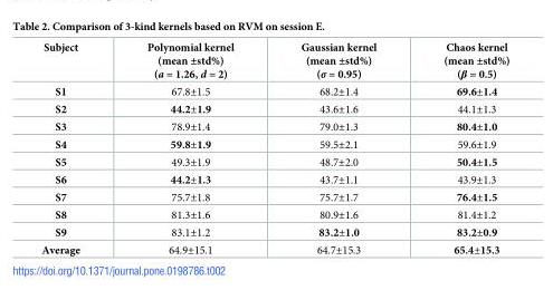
<table><thead><tr><td>Subject</td><td>Polynomial kernel (mean ±std%) (a = 1.26, d = 2)</td><td>Gaussian kernel (mean ±std%) (σ = 0.95)</td><td>Chaos kernel (mean ±std%) (β = 0.5)</td></tr></thead><tbody><tr><td>S1</td><td>67.8±1.5</td><td>68.2±1.4</td><td>69.6±1.4</td></tr><tr><td>S2</td><td>44.2±1.9</td><td>43.6±1.6</td><td>44.1±1.3</td></tr><tr><td>S3</td><td>78.9±1.4</td><td>79.0±1.3</td><td>80.4±1.0</td></tr><tr><td>S4</td><td>59.8±1.9</td><td>59.5±2.1</td><td>59.6±1.9</td></tr><tr><td>S5</td><td>49.3±1.9</td><td>48.7±2.0</td><td>50.4±1.5</td></tr><tr><td>S6</td><td>44.2±1.3</td><td>43.7±1.1</td><td>43.9±1.3</td></tr><tr><td>S7</td><td>75.7±1.8</td><td>75.7±1.7</td><td>76.4±1.5</td></tr><tr><td>S8</td><td>81.3±1.6</td><td>80.9±1.6</td><td>81.4±1.2</td></tr><tr><td>S9</td><td>83.1±1.2</td><td>83.2±1.0</td><td>83.2±0.9</td></tr><tr><td>Average</td><td>64.9±15.1</td><td>64.7±15.3</td><td>65.4±15.3</td></tr></tbody></table>